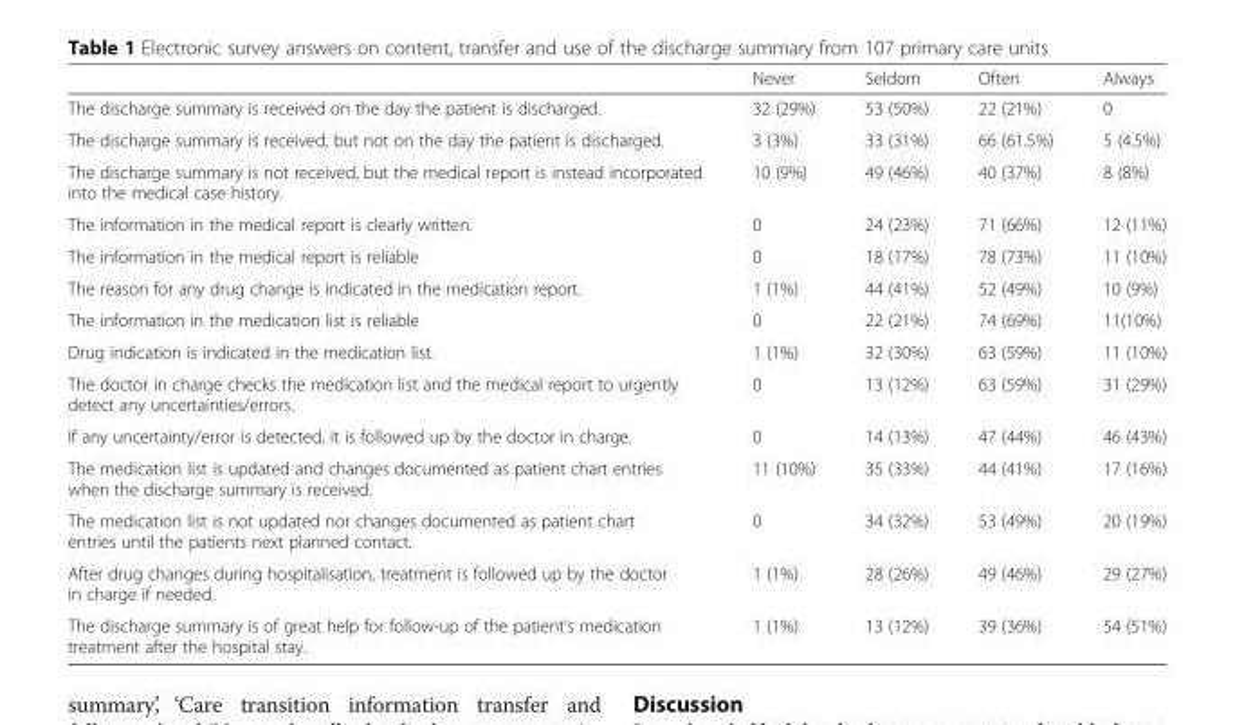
<table><thead><tr><td></td><td>Never</td><td>Seldom</td><td>Often</td><td>Always</td></tr></thead><tbody><tr><td>The discharge summary is received on the day the patient is discharged.</td><td>32 (29%)</td><td>53 (50%)</td><td>22 (21%)</td><td>0</td></tr><tr><td>The discharge summary is received, but not on the day the patient is discharged.</td><td>3 (3%)</td><td>33 (31%)</td><td>66 (61.5%)</td><td>5 (4.5%)</td></tr><tr><td>The discharge summary is not received, but the medical report is instead incorporated into the medical case history.</td><td>10 (9%)</td><td>49 (46%)</td><td>40 (37%)</td><td>8 (8%)</td></tr><tr><td>The information in the medical report is clearly written.</td><td>0</td><td>24 (23%)</td><td>71 (66%)</td><td>12 (11%)</td></tr><tr><td>The information in the medical report is reliable</td><td>0</td><td>18 (17%)</td><td>78 (73%)</td><td>11 (10%)</td></tr><tr><td>The reason for any drug change is indicated in the medication report.</td><td>1 (1%)</td><td>44 (41%)</td><td>52 (49%)</td><td>10 (9%)</td></tr><tr><td>The information in the medication list is reliable</td><td>0</td><td>22 (21%)</td><td>74 (69%)</td><td>11(10%)</td></tr><tr><td>Drug indication is indicated in the medication list.</td><td>1 (1%)</td><td>32 (30%)</td><td>63 (59%)</td><td>11 (10%)</td></tr><tr><td>The doctor in charge checks the medication list and the medical report to urgently detect any uncertainties/errors.</td><td>0</td><td>13 (12%)</td><td>63 (59%)</td><td>31 (29%)</td></tr><tr><td>If any uncertainty/error is detected, it is followed up by the doctor in charge.</td><td>0</td><td>14 (13%)</td><td>47 (44%)</td><td>46 (43%)</td></tr><tr><td>The medication list is updated and changes documented as patient chart entries when the discharge summary is received.</td><td>11 (10%)</td><td>35 (33%)</td><td>44 (41%)</td><td>17 (16%)</td></tr><tr><td>The medication list is not updated nor changes documented as patient chart entries until the patients next planned contact.</td><td>0</td><td>34 (32%)</td><td>53 (49%)</td><td>20 (19%)</td></tr><tr><td>After drug changes during hospitalisation, treatment is followed up by the doctor in charge if needed.</td><td>1 (1%)</td><td>28 (26%)</td><td>49 (46%)</td><td>29 (27%)</td></tr><tr><td>The discharge summary is of great help for follow-up of the patient’s medication treatment after the hospital stay.</td><td>1 (1%)</td><td>13 (12%)</td><td>39 (36%)</td><td>54 (51%)</td></tr></tbody></table>